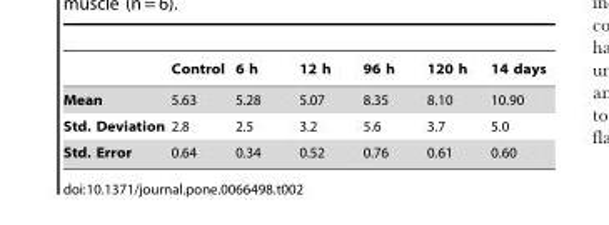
<table><thead><tr><td></td><td>Control</td><td>6 h</td><td>12 h</td><td>96 h</td><td>120 h</td><td>14 days</td></tr></thead><tbody><tr><td>Mean</td><td>5.63</td><td>5.28</td><td>5.07</td><td>8.35</td><td>8.10</td><td>10.90</td></tr><tr><td>Std. Deviation</td><td>2.8</td><td>2.5</td><td>3.2</td><td>5.6</td><td>3.7</td><td>5.0</td></tr><tr><td>Std. Error</td><td>0.64</td><td>0.34</td><td>0.52</td><td>0.76</td><td>0.61</td><td>0.60</td></tr></tbody></table>